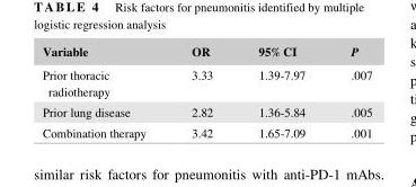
<table><thead><tr><td>Variable</td><td>OR</td><td>95% CI</td><td>P</td></tr></thead><tbody><tr><td>Prior thoracic radiotherapy</td><td>3.33</td><td>1.39- 7.97</td><td>.007</td></tr><tr><td>Prior lung disease</td><td>2.82</td><td>1.36- 5.84</td><td>.005</td></tr><tr><td>Combination therapy</td><td>3.42</td><td>1.65- 7.09</td><td>.001</td></tr></tbody></table>